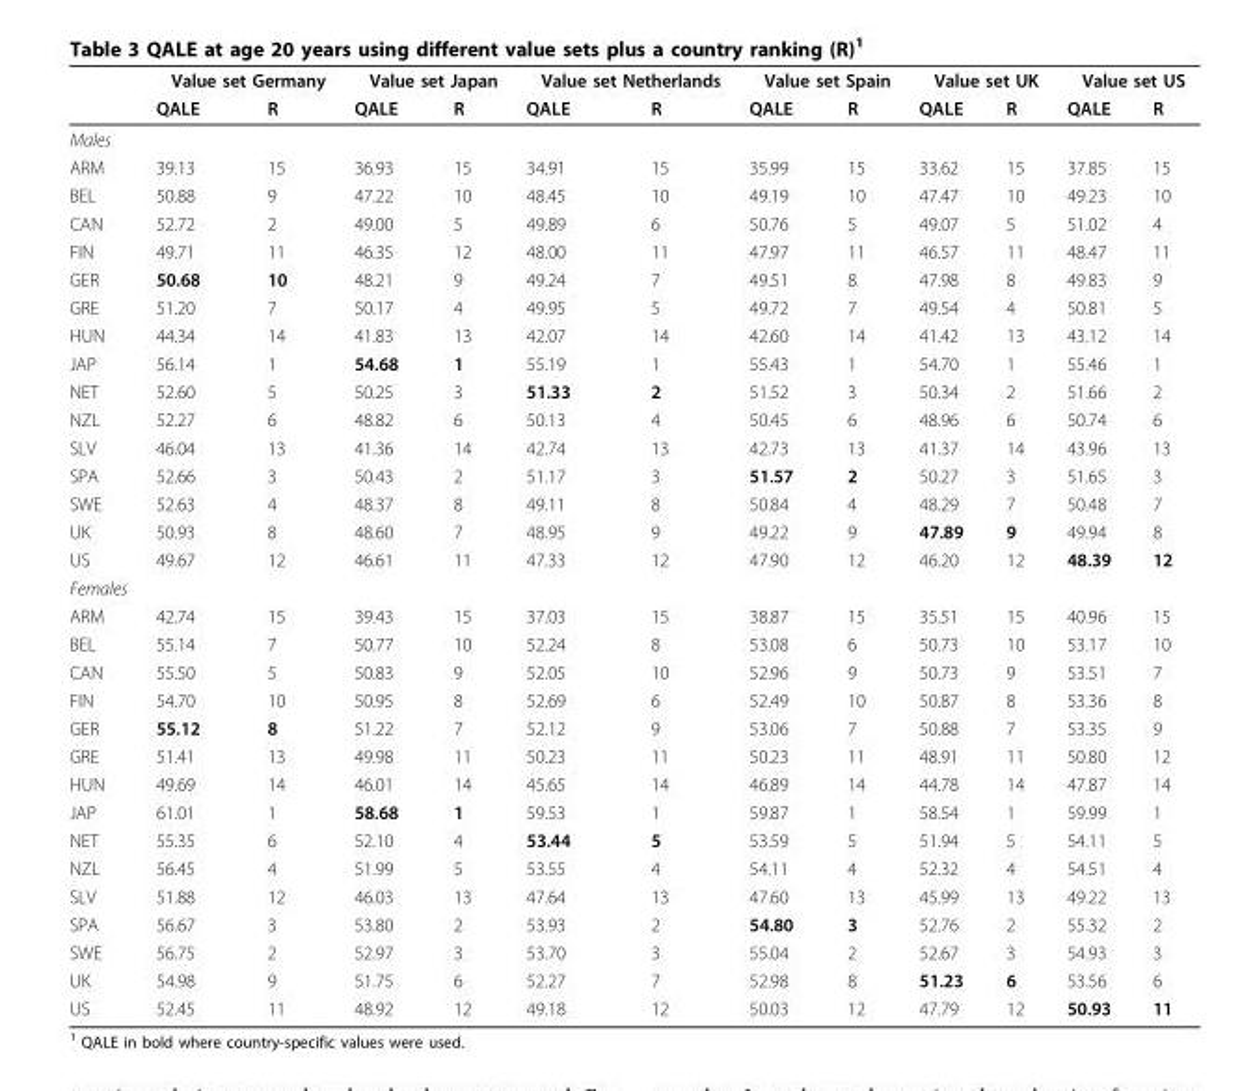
<table><thead><tr><td rowspan="2"></td><td colspan="2">Value set Germany</td><td colspan="2">Value set Japan</td><td colspan="2">Value set Netherlands</td><td colspan="2">Value set Spain</td><td colspan="2">Value set UK</td><td colspan="2">Value set US</td></tr><tr><td>QALE</td><td>R</td><td>QALE</td><td>R</td><td>QALE</td><td>R</td><td>QALE</td><td>R</td><td>QALE</td><td>R</td><td>QALE</td><td>R</td></tr></thead><tbody><tr><td colspan="13">Males</td></tr><tr><td>ARM</td><td>39.13</td><td>15</td><td>36.93</td><td>15</td><td>34.91</td><td>15</td><td>35.99</td><td>15</td><td>33.62</td><td>15</td><td>37.85</td><td>15</td></tr><tr><td>BEL</td><td>50.88</td><td>9</td><td>47.22</td><td>10</td><td>48.45</td><td>10</td><td>49.19</td><td>10</td><td>47.47</td><td>10</td><td>49.23</td><td>10</td></tr><tr><td>CAN</td><td>52.72</td><td>2</td><td>49.00</td><td>5</td><td>49.89</td><td>6</td><td>50.76</td><td>5</td><td>49.07</td><td>5</td><td>51.02</td><td>4</td></tr><tr><td>FIN</td><td>49.71</td><td>11</td><td>46.35</td><td>12</td><td>48.00</td><td>11</td><td>47.97</td><td>11</td><td>46.57</td><td>11</td><td>48.47</td><td>11</td></tr><tr><td>GER</td><td>50.68</td><td>10</td><td>48.21</td><td>9</td><td>49.24</td><td>7</td><td>49.51</td><td>8</td><td>47.98</td><td>8</td><td>49.83</td><td>9</td></tr><tr><td>GRE</td><td>51.20</td><td>7</td><td>50.17</td><td>4</td><td>49.95</td><td>5</td><td>49.72</td><td>7</td><td>49.54</td><td>4</td><td>50.81</td><td>5</td></tr><tr><td>HUN</td><td>44.34</td><td>14</td><td>41.83</td><td>13</td><td>42.07</td><td>14</td><td>42.60</td><td>14</td><td>41.42</td><td>13</td><td>43.12</td><td>14</td></tr><tr><td>JAP</td><td>56.14</td><td>1</td><td>54.68</td><td>1</td><td>55.19</td><td>1</td><td>55.43</td><td>1</td><td>54.70</td><td>1</td><td>55.46</td><td>1</td></tr><tr><td>NET</td><td>52.60</td><td>5</td><td>50.25</td><td>3</td><td>51.33</td><td>2</td><td>51.52</td><td>3</td><td>50.34</td><td>2</td><td>51.66</td><td>2</td></tr><tr><td>NZL</td><td>52.27</td><td>6</td><td>48.82</td><td>6</td><td>50.13</td><td>4</td><td>50.45</td><td>6</td><td>48.96</td><td>6</td><td>50.74</td><td>6</td></tr><tr><td>SLV</td><td>46.04</td><td>13</td><td>41.36</td><td>14</td><td>42.74</td><td>13</td><td>42.73</td><td>13</td><td>41.37</td><td>14</td><td>43.96</td><td>13</td></tr><tr><td>SPA</td><td>52.66</td><td>3</td><td>50.43</td><td>2</td><td>51.17</td><td>3</td><td>51.57</td><td>2</td><td>50.27</td><td>3</td><td>51.65</td><td>3</td></tr><tr><td>SWE</td><td>52.63</td><td>4</td><td>48.37</td><td>8</td><td>49.11</td><td>8</td><td>50.84</td><td>4</td><td>48.29</td><td>7</td><td>50.48</td><td>7</td></tr><tr><td>UK</td><td>50.93</td><td>8</td><td>48.60</td><td>7</td><td>48.95</td><td>9</td><td>49.22</td><td>9</td><td>47.89</td><td>9</td><td>49.94</td><td>8</td></tr><tr><td>US</td><td>49.67</td><td>12</td><td>46.61</td><td>11</td><td>47.33</td><td>12</td><td>47.90</td><td>12</td><td>46.20</td><td>12</td><td>48.39</td><td>12</td></tr><tr><td colspan="13">Females</td></tr><tr><td>ARM</td><td>42.74</td><td>15</td><td>39.43</td><td>15</td><td>37.03</td><td>15</td><td>38.87</td><td>15</td><td>35.51</td><td>15</td><td>40.96</td><td>15</td></tr><tr><td>BEL</td><td>55.14</td><td>7</td><td>50.77</td><td>10</td><td>52.24</td><td>8</td><td>53.08</td><td>6</td><td>50.73</td><td>10</td><td>53.17</td><td>10</td></tr><tr><td>CAN</td><td>55.50</td><td>5</td><td>50.83</td><td>9</td><td>52.05</td><td>10</td><td>52.96</td><td>9</td><td>50.73</td><td>9</td><td>53.51</td><td>7</td></tr><tr><td>FIN</td><td>54.70</td><td>10</td><td>50.95</td><td>8</td><td>52.69</td><td>6</td><td>52.49</td><td>10</td><td>50.87</td><td>8</td><td>53.36</td><td>8</td></tr><tr><td>GER</td><td>55.12</td><td>8</td><td>51.22</td><td>7</td><td>52.12</td><td>9</td><td>53.06</td><td>7</td><td>50.88</td><td>7</td><td>53.35</td><td>9</td></tr><tr><td>GRE</td><td>51.41</td><td>13</td><td>49.98</td><td>11</td><td>50.23</td><td>11</td><td>50.23</td><td>11</td><td>48.91</td><td>11</td><td>50.80</td><td>12</td></tr><tr><td>HUN</td><td>49.69</td><td>14</td><td>46.01</td><td>14</td><td>45.65</td><td>14</td><td>46.89</td><td>14</td><td>44.78</td><td>14</td><td>47.87</td><td>14</td></tr><tr><td>JAP</td><td>61.01</td><td>1</td><td>58.68</td><td>1</td><td>59.53</td><td>1</td><td>59.87</td><td>1</td><td>58.54</td><td>1</td><td>59.99</td><td>1</td></tr><tr><td>NET</td><td>55.35</td><td>6</td><td>52.10</td><td>4</td><td>53.44</td><td>5</td><td>53.59</td><td>5</td><td>51.94</td><td>5</td><td>54.11</td><td>5</td></tr><tr><td>NZL</td><td>56.45</td><td>4</td><td>51.99</td><td>5</td><td>53.55</td><td>4</td><td>54.11</td><td>4</td><td>52.32</td><td>4</td><td>54.51</td><td>4</td></tr><tr><td>SLV</td><td>51.88</td><td>12</td><td>46.03</td><td>13</td><td>47.64</td><td>13</td><td>47.60</td><td>13</td><td>45.99</td><td>13</td><td>49.22</td><td>13</td></tr><tr><td>SPA</td><td>56.67</td><td>3</td><td>53.80</td><td>2</td><td>53.93</td><td>2</td><td>54.80</td><td>3</td><td>52.76</td><td>2</td><td>55.32</td><td>2</td></tr><tr><td>SWE</td><td>56.75</td><td>2</td><td>52.97</td><td>3</td><td>53.70</td><td>3</td><td>55.04</td><td>2</td><td>52.67</td><td>3</td><td>54.93</td><td>3</td></tr><tr><td>UK</td><td>54.98</td><td>9</td><td>51.75</td><td>6</td><td>52.27</td><td>7</td><td>52.98</td><td>8</td><td>51.23</td><td>6</td><td>53.56</td><td>6</td></tr><tr><td>US</td><td>52.45</td><td>11</td><td>48.92</td><td>12</td><td>49.18</td><td>12</td><td>50.03</td><td>12</td><td>47.79</td><td>12</td><td>50.93</td><td>11</td></tr></tbody></table>